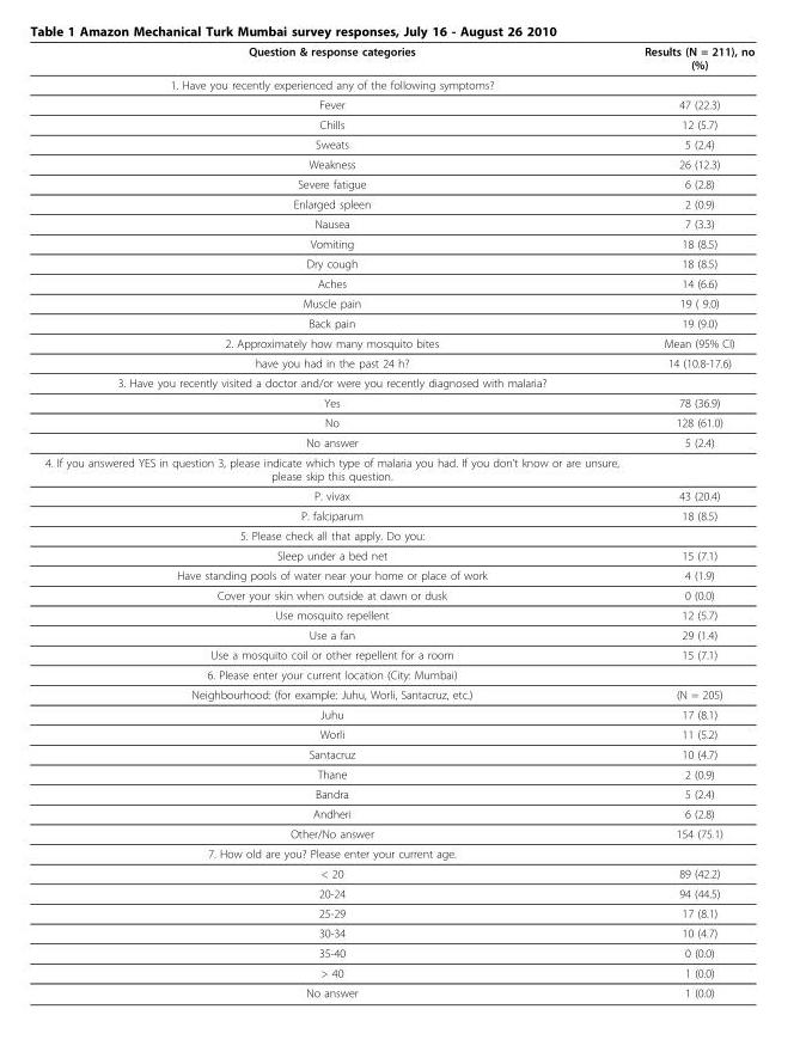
<table><thead><tr><td>Question &amp; response categories</td><td>Results (N = 211), no (%)</td></tr></thead><tbody><tr><td colspan="2">1. Have you recently experienced any of the following symptoms?</td></tr><tr><td>Fever</td><td>47 (22.3)</td></tr><tr><td>Chills</td><td>12 (5.7)</td></tr><tr><td>Sweats</td><td>5 (2.4)</td></tr><tr><td>Weakness</td><td>26 (12.3)</td></tr><tr><td>Severe fatigue</td><td>6 (2.8)</td></tr><tr><td>Enlarged spleen</td><td>2 (0.9)</td></tr><tr><td>Nausea</td><td>7 (3.3)</td></tr><tr><td>Vomiting</td><td>18 (8.5)</td></tr><tr><td>Dry cough</td><td>18 (8.5)</td></tr><tr><td>Aches</td><td>14 (6.6)</td></tr><tr><td>Muscle pain</td><td>19 ( 9.0)</td></tr><tr><td>Back pain</td><td>19 (9.0)</td></tr><tr><td>2. Approximately how many mosquito bites</td><td>Mean (95% CI)</td></tr><tr><td>have you had in the past 24 h?</td><td>14 (10.8-17.6)</td></tr><tr><td colspan="2">3. Have you recently visited a doctor and/or were you recently diagnosed with malaria?</td></tr><tr><td>Yes</td><td>78 (36.9)</td></tr><tr><td>No</td><td>128 (61.0)</td></tr><tr><td>No answer</td><td>5 (2.4)</td></tr><tr><td colspan="2">4. If you answered YES in question 3, please indicate which type of malaria you had. If you don’t know or are unsure, please skip this question.</td></tr><tr><td>P. vivax</td><td>43 (20.4)</td></tr><tr><td>P. falciparum</td><td>18 (8.5)</td></tr><tr><td colspan="2">5. Please check all that apply. Do you:</td></tr><tr><td>Sleep under a bed net</td><td>15 (7.1)</td></tr><tr><td>Have standing pools of water near your home or place of work</td><td>4 (1.9)</td></tr><tr><td>Cover your skin when outside at dawn or dusk</td><td>0 (0.0)</td></tr><tr><td>Use mosquito repellent</td><td>12 (5.7)</td></tr><tr><td>Use a fan</td><td>29 (1.4)</td></tr><tr><td>Use a mosquito coil or other repellent for a room</td><td>15 (7.1)</td></tr><tr><td colspan="2">6. Please enter your current location (City: Mumbai)</td></tr><tr><td>Neighbourhood: (for example: Juhu, Worli, Santacruz, etc.)</td><td>(N = 205)</td></tr><tr><td>Juhu</td><td>17 (8.1)</td></tr><tr><td>Worli</td><td>11 (5.2)</td></tr><tr><td>Santacruz</td><td>10 (4.7)</td></tr><tr><td>Thane</td><td>2 (0.9)</td></tr><tr><td>Bandra</td><td>5 (2.4)</td></tr><tr><td>Andheri</td><td>6 (2.8)</td></tr><tr><td>Other/No answer</td><td>154 (75.1)</td></tr><tr><td colspan="2">7. How old are you? Please enter your current age.</td></tr><tr><td>&lt; 20</td><td>89 (42.2)</td></tr><tr><td>20-24</td><td>94 (44.5)</td></tr><tr><td>25-29</td><td>17 (8.1)</td></tr><tr><td>30-34</td><td>10 (4.7)</td></tr><tr><td>35-40</td><td>0 (0.0)</td></tr><tr><td>&gt; 40</td><td>1 (0.0)</td></tr><tr><td>No answer</td><td>1 (0.0)</td></tr></tbody></table>